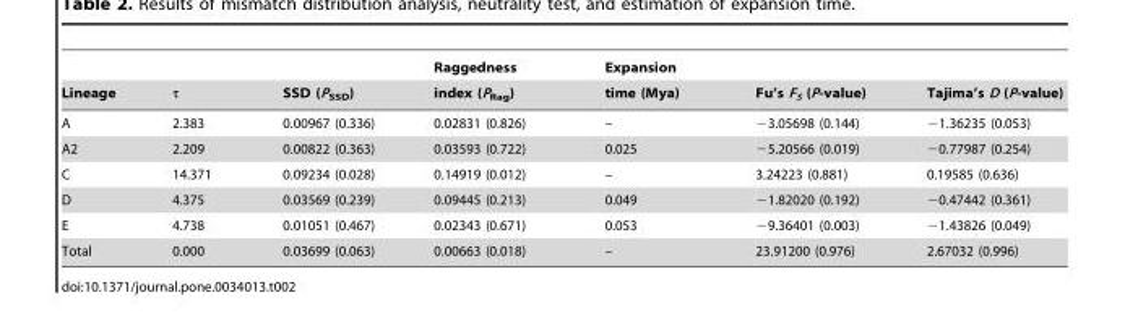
<table><thead><tr><td rowspan="2">Lineage</td><td rowspan="2">τ</td><td rowspan="2">SSD (P<sub>SSD</sub>)</td><td rowspan="2">Raggedness index (P<sub>Rag</sub>)</td><td rowspan="2">Expansion time (Mya)</td><td rowspan="2">Fu’s F<sub>S</sub> (P-value)</td><td rowspan="2">Tajima’s D (P-value)</td></tr><tr></tr></thead><tbody><tr><td>A</td><td>2.383</td><td>0.00967 (0.336)</td><td>0.02831 (0.826)</td><td>–</td><td>−3.05698 (0.144)</td><td>−1.36235 (0.053)</td></tr><tr><td>A2</td><td>2.209</td><td>0.00822 (0.363)</td><td>0.03593 (0.722)</td><td>0.025</td><td>−5.20566 (0.019)</td><td>−0.77987 (0.254)</td></tr><tr><td>C</td><td>14.371</td><td>0.09234 (0.028)</td><td>0.14919 (0.012)</td><td>–</td><td>3.24223 (0.881)</td><td>0.19585 (0.636)</td></tr><tr><td>D</td><td>4.375</td><td>0.03569 (0.239)</td><td>0.09445 (0.213)</td><td>0.049</td><td>−1.82020 (0.192)</td><td>−0.47442 (0.361)</td></tr><tr><td>E</td><td>4.738</td><td>0.01051 (0.467)</td><td>0.02343 (0.671)</td><td>0.053</td><td>−9.36401 (0.003)</td><td>−1.43826 (0.049)</td></tr><tr><td>Total</td><td>0.000</td><td>0.03699 (0.063)</td><td>0.00663 (0.018)</td><td>–</td><td>23.91200 (0.976)</td><td>2.67032 (0.996)</td></tr></tbody></table>